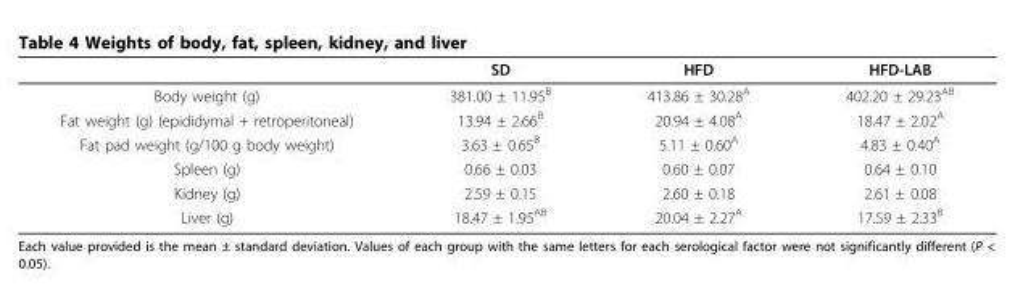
<table><thead><tr><td></td><td>SD</td><td>HFD</td><td>HFD-LAB</td></tr></thead><tbody><tr><td>Body weight (g)</td><td>381.00 ± 11.95<sup>B</sup></td><td>413.86 ± 30.28<sup>A</sup></td><td>402.20 ± 29.23<sup>AB</sup></td></tr><tr><td>Fat weight (g) (epididymal + retroperitoneal)</td><td>13.94 ± 2.66<sup>B</sup></td><td>20.94 ± 4.08<sup>A</sup></td><td>18.47 ± 2.02<sup>A</sup></td></tr><tr><td>Fat pad weight (g/100 g body weight)</td><td>3.63 ± 0.65<sup>B</sup></td><td>5.11 ± 0.60<sup>A</sup></td><td>4.83 ± 0.40<sup>A</sup></td></tr><tr><td>Spleen (g)</td><td>0.66 ± 0.03</td><td>0.60 ± 0.07</td><td>0.64 ± 0.10</td></tr><tr><td>Kidney (g)</td><td>2.59 ± 0.15</td><td>2.60 ± 0.18</td><td>2.61 ± 0.08</td></tr><tr><td>Liver (g)</td><td>18.47 ± 1.95<sup>AB</sup></td><td>20.04 ± 2.27<sup>A</sup></td><td>17.59 ± 2.33<sup>B</sup></td></tr></tbody></table>